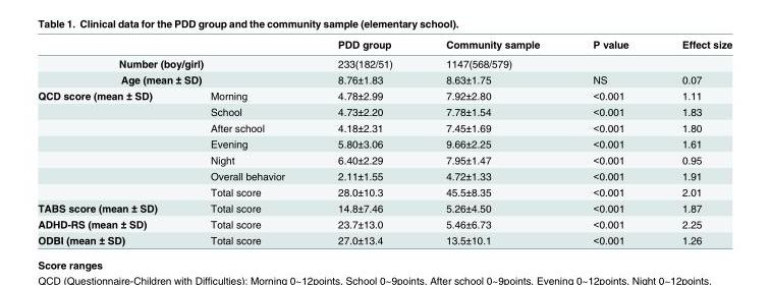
<table><thead><tr><td></td><td></td><td>PDD group</td><td>Community sample</td><td>P value</td><td>Effect size</td></tr></thead><tbody><tr><td colspan="2">Number (boy/girl)</td><td>233(182/51)</td><td>1147(568/579)</td><td></td><td></td></tr><tr><td colspan="2">Age (mean ± SD)</td><td>8.76±1.83</td><td>8.63±1.75</td><td>NS</td><td>0.07</td></tr><tr><td rowspan="7">QCD score (mean ± SD)</td><td>Morning</td><td>4.78±2.99</td><td>7.92±2.80</td><td>&lt;0.001</td><td>1.11</td></tr><tr><td>School</td><td>4.73±2.20</td><td>7.78±1.54</td><td>&lt;0.001</td><td>1.83</td></tr><tr><td>After school</td><td>4.18±2.31</td><td>7.45±1.69</td><td>&lt;0.001</td><td>1.80</td></tr><tr><td>Evening</td><td>5.80±3.06</td><td>9.66±2.25</td><td>&lt;0.001</td><td>1.61</td></tr><tr><td>Night</td><td>6.40±2.29</td><td>7.95±1.47</td><td>&lt;0.001</td><td>0.95</td></tr><tr><td>Overall behavior</td><td>2.11±1.55</td><td>4.72±1.33</td><td>&lt;0.001</td><td>1.91</td></tr><tr><td>Total score</td><td>28.0±10.3</td><td>45.5±8.35</td><td>&lt;0.001</td><td>2.01</td></tr><tr><td>TABS score (mean ± SD)</td><td>Total score</td><td>14.8±7.46</td><td>5.26±4.50</td><td>&lt;0.001</td><td>1.87</td></tr><tr><td>ADHD-RS (mean ± SD)</td><td>Total score</td><td>23.7±13.0</td><td>5.46±6.73</td><td>&lt;0.001</td><td>2.25</td></tr><tr><td>ODBI (mean ± SD)</td><td>Total score</td><td>27.0±13.4</td><td>13.5±10.1</td><td>&lt;0.001</td><td>1.26</td></tr></tbody></table>